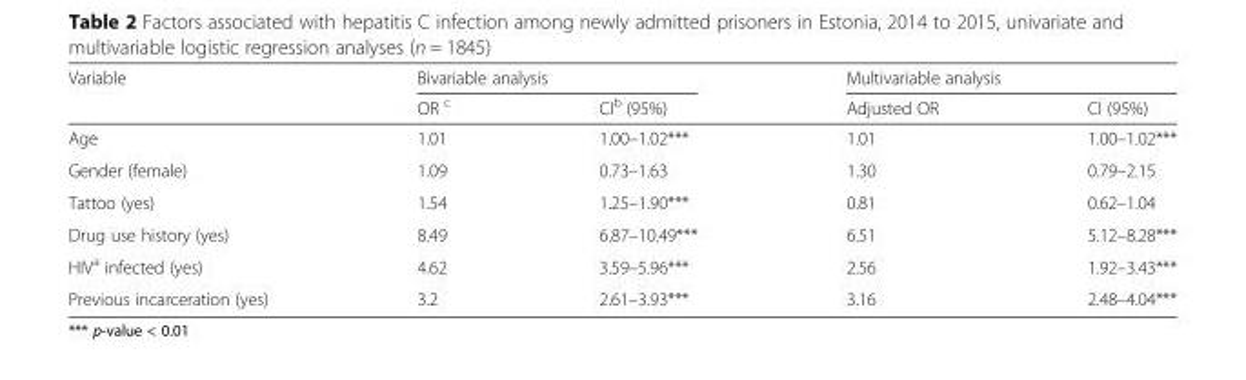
<table><thead><tr><td rowspan="2">Variable</td><td colspan="2">Bivariable analysis</td><td colspan="2">Multivariable analysis</td></tr><tr><td>OR <sup>c</sup></td><td>CI<sup>b</sup> (95%)</td><td>Adjusted OR</td><td>CI (95%)</td></tr></thead><tbody><tr><td>Age</td><td>1.01</td><td>1.00–1.02***</td><td>1.01</td><td>1.00–1.02***</td></tr><tr><td>Gender (female)</td><td>1.09</td><td>0.73–1.63</td><td>1.30</td><td>0.79–2.15</td></tr><tr><td>Tattoo (yes)</td><td>1.54</td><td>1.25–1.90***</td><td>0.81</td><td>0.62–1.04</td></tr><tr><td>Drug use history (yes)</td><td>8.49</td><td>6.87–10.49***</td><td>6.51</td><td>5.12–8.28***</td></tr><tr><td>HIV<sup>a</sup> infected (yes)</td><td>4.62</td><td>3.59–5.96***</td><td>2.56</td><td>1.92–3.43***</td></tr><tr><td>Previous incarceration (yes)</td><td>3.2</td><td>2.61–3.93***</td><td>3.16</td><td>2.48–4.04***</td></tr></tbody></table>